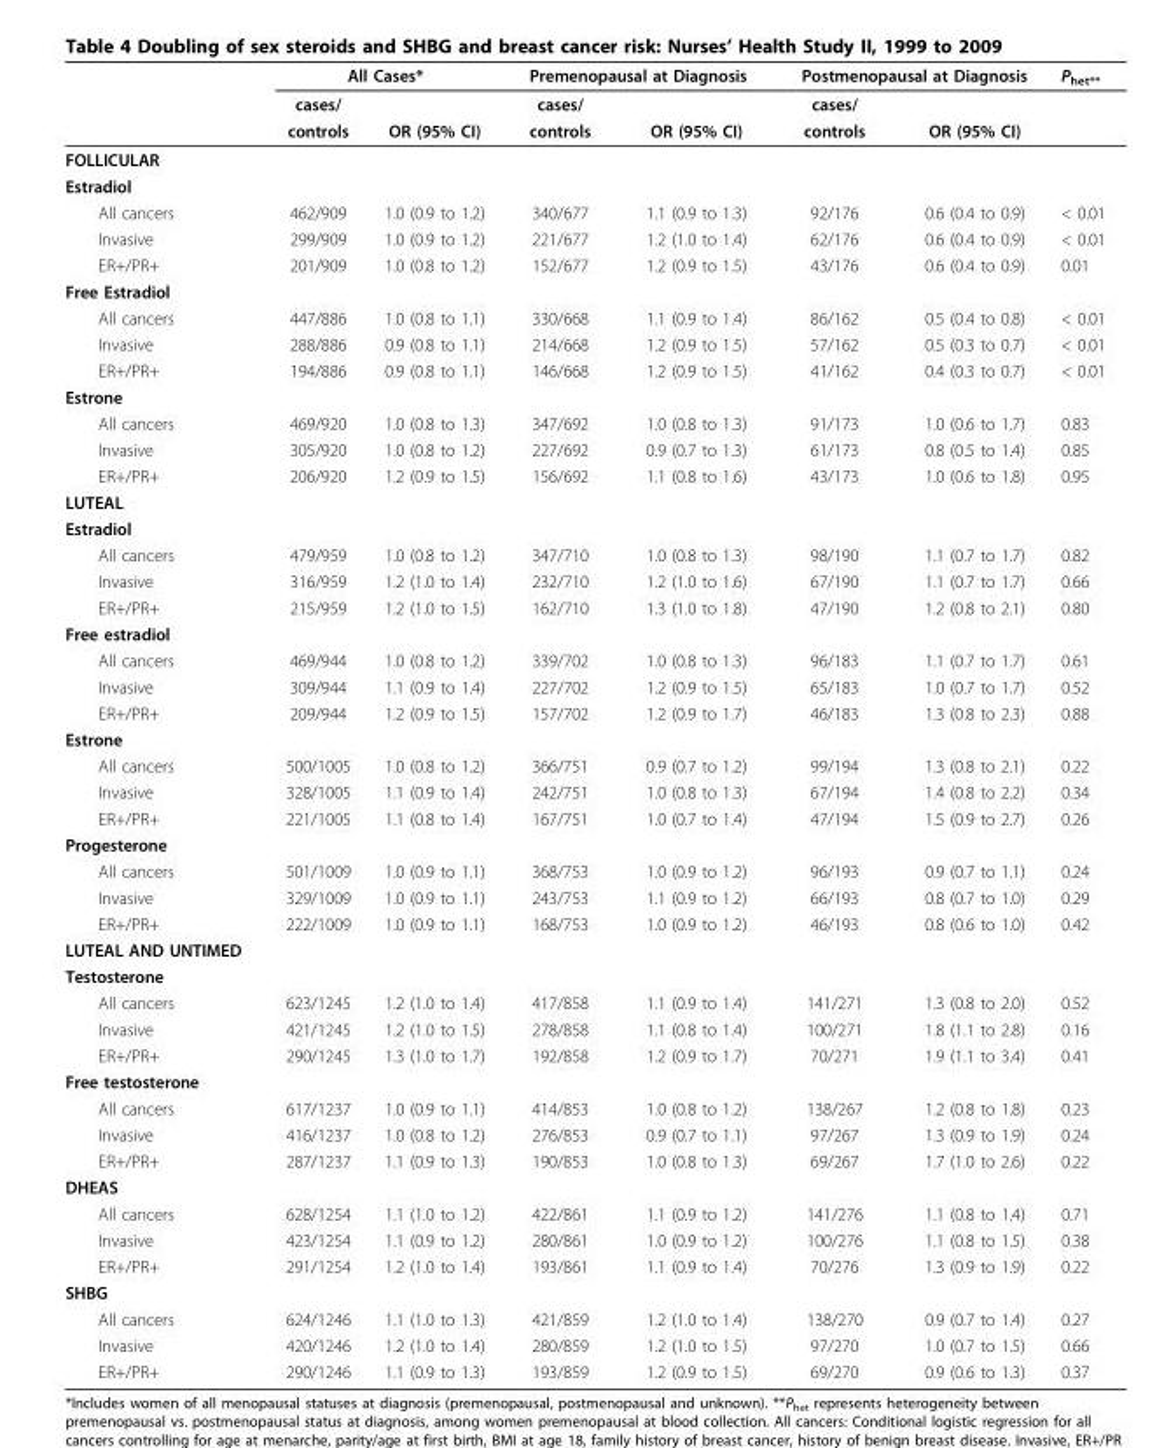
<table><thead><tr><td rowspan="3"></td><td colspan="2">All Cases*</td><td colspan="2">Premenopausal at Diagnosis</td><td colspan="2">Postmenopausal at Diagnosis</td><td rowspan="3">P<sub>het**</sub></td></tr><tr><td rowspan="2">cases/ controls</td><td rowspan="2">OR (95% CI)</td><td rowspan="2">cases/ controls</td><td rowspan="2">OR (95% CI)</td><td rowspan="2">cases/ controls</td><td rowspan="2">OR (95% CI)</td></tr><tr></tr></thead><tbody><tr><td colspan="8">FOLLICULAR</td></tr><tr><td colspan="8">Estradiol</td></tr><tr><td>All cancers</td><td>462/909</td><td>1.0 (0.9 to 1.2)</td><td>340/677</td><td>1.1 (0.9 to 1.3)</td><td>92/176</td><td>0.6 (0.4 to 0.9)</td><td>&lt; 0.01</td></tr><tr><td>Invasive</td><td>299/909</td><td>1.0 (0.9 to 1.2)</td><td>221/677</td><td>1.2 (1.0 to 1.4)</td><td>62/176</td><td>0.6 (0.4 to 0.9)</td><td>&lt; 0.01</td></tr><tr><td>ER+/PR+</td><td>201/909</td><td>1.0 (0.8 to 1.2)</td><td>152/677</td><td>1.2 (0.9 to 1.5)</td><td>43/176</td><td>0.6 (0.4 to 0.9)</td><td>0.01</td></tr><tr><td colspan="8">Free Estradiol</td></tr><tr><td>All cancers</td><td>447/886</td><td>1.0 (0.8 to 1.1)</td><td>330/668</td><td>1.1 (0.9 to 1.4)</td><td>86/162</td><td>0.5 (0.4 to 0.8)</td><td>&lt; 0.01</td></tr><tr><td>Invasive</td><td>288/886</td><td>0.9 (0.8 to 1.1)</td><td>214/668</td><td>1.2 (0.9 to 1.5)</td><td>57/162</td><td>0.5 (0.3 to 0.7)</td><td>&lt; 0.01</td></tr><tr><td>ER+/PR+</td><td>194/886</td><td>0.9 (0.8 to 1.1)</td><td>146/668</td><td>1.2 (0.9 to 1.5)</td><td>41/162</td><td>0.4 (0.3 to 0.7)</td><td>&lt; 0.01</td></tr><tr><td colspan="8">Estrone</td></tr><tr><td>All cancers</td><td>469/920</td><td>1.0 (0.8 to 1.3)</td><td>347/692</td><td>1.0 (0.8 to 1.3)</td><td>91/173</td><td>1.0 (0.6 to 1.7)</td><td>0.83</td></tr><tr><td>Invasive</td><td>305/920</td><td>1.0 (0.8 to 1.2)</td><td>227/692</td><td>0.9 (0.7 to 1.3)</td><td>61/173</td><td>0.8 (0.5 to 1.4)</td><td>0.85</td></tr><tr><td>ER+/PR+</td><td>206/920</td><td>1.2 (0.9 to 1.5)</td><td>156/692</td><td>1.1 (0.8 to 1.6)</td><td>43/173</td><td>1.0 (0.6 to 1.8)</td><td>0.95</td></tr><tr><td colspan="8">LUTEAL</td></tr><tr><td colspan="8">Estradiol</td></tr><tr><td>All cancers</td><td>479/959</td><td>1.0 (0.8 to 1.2)</td><td>347/710</td><td>1.0 (0.8 to 1.3)</td><td>98/190</td><td>1.1 (0.7 to 1.7)</td><td>0.82</td></tr><tr><td>Invasive</td><td>316/959</td><td>1.2 (1.0 to 1.4)</td><td>232/710</td><td>1.2 (1.0 to 1.6)</td><td>67/190</td><td>1.1 (0.7 to 1.7)</td><td>0.66</td></tr><tr><td>ER+/PR+</td><td>215/959</td><td>1.2 (1.0 to 1.5)</td><td>162/710</td><td>1.3 (1.0 to 1.8)</td><td>47/190</td><td>1.2 (0.8 to 2.1)</td><td>0.80</td></tr><tr><td colspan="8">Free estradiol</td></tr><tr><td>All cancers</td><td>469/944</td><td>1.0 (0.8 to 1.2)</td><td>339/702</td><td>1.0 (0.8 to 1.3)</td><td>96/183</td><td>1.1 (0.7 to 1.7)</td><td>0.61</td></tr><tr><td>Invasive</td><td>309/944</td><td>1.1 (0.9 to 1.4)</td><td>227/702</td><td>1.2 (0.9 to 1.5)</td><td>65/183</td><td>1.0 (0.7 to 1.7)</td><td>0.52</td></tr><tr><td>ER+/PR+</td><td>209/944</td><td>1.2 (0.9 to 1.5)</td><td>157/702</td><td>1.2 (0.9 to 1.7)</td><td>46/183</td><td>1.3 (0.8 to 2.3)</td><td>0.88</td></tr><tr><td colspan="8">Estrone</td></tr><tr><td>All cancers</td><td>500/1005</td><td>1.0 (0.8 to 1.2)</td><td>366/751</td><td>0.9 (0.7 to 1.2)</td><td>99/194</td><td>1.3 (0.8 to 2.1)</td><td>0.22</td></tr><tr><td>Invasive</td><td>328/1005</td><td>1.1 (0.9 to 1.4)</td><td>242/751</td><td>1.0 (0.8 to 1.3)</td><td>67/194</td><td>1.4 (0.8 to 2.2)</td><td>0.34</td></tr><tr><td>ER+/PR+</td><td>221/1005</td><td>1.1 (0.8 to 1.4)</td><td>167/751</td><td>1.0 (0.7 to 1.4)</td><td>47/194</td><td>1.5 (0.9 to 2.7)</td><td>0.26</td></tr><tr><td colspan="8">Progesterone</td></tr><tr><td>All cancers</td><td>501/1009</td><td>1.0 (0.9 to 1.1)</td><td>368/753</td><td>1.0 (0.9 to 1.2)</td><td>96/193</td><td>0.9 (0.7 to 1.1)</td><td>0.24</td></tr><tr><td>Invasive</td><td>329/1009</td><td>1.0 (0.9 to 1.1)</td><td>243/753</td><td>1.1 (0.9 to 1.2)</td><td>66/193</td><td>0.8 (0.7 to 1.0)</td><td>0.29</td></tr><tr><td>ER+/PR+</td><td>222/1009</td><td>1.0 (0.9 to 1.1)</td><td>168/753</td><td>1.0 (0.9 to 1.2)</td><td>46/193</td><td>0.8 (0.6 to 1.0)</td><td>0.42</td></tr><tr><td colspan="8">LUTEAL AND UNTIMED</td></tr><tr><td colspan="8">Testosterone</td></tr><tr><td>All cancers</td><td>623/1245</td><td>1.2 (1.0 to 1.4)</td><td>417/858</td><td>1.1 (0.9 to 1.4)</td><td>141/271</td><td>1.3 (0.8 to 2.0)</td><td>0.52</td></tr><tr><td>Invasive</td><td>421/1245</td><td>1.2 (1.0 to 1.5)</td><td>278/858</td><td>1.1 (0.8 to 1.4)</td><td>100/271</td><td>1.8 (1.1 to 2.8)</td><td>0.16</td></tr><tr><td>ER+/PR+</td><td>290/1245</td><td>1.3 (1.0 to 1.7)</td><td>192/858</td><td>1.2 (0.9 to 1.7)</td><td>70/271</td><td>1.9 (1.1 to 3.4)</td><td>0.41</td></tr><tr><td colspan="8">Free testosterone</td></tr><tr><td>All cancers</td><td>617/1237</td><td>1.0 (0.9 to 1.1)</td><td>414/853</td><td>1.0 (0.8 to 1.2)</td><td>138/267</td><td>1.2 (0.8 to 1.8)</td><td>0.23</td></tr><tr><td>Invasive</td><td>416/1237</td><td>1.0 (0.8 to 1.2)</td><td>276/853</td><td>0.9 (0.7 to 1.1)</td><td>97/267</td><td>1.3 (0.9 to 1.9)</td><td>0.24</td></tr><tr><td>ER+/PR+</td><td>287/1237</td><td>1.1 (0.9 to 1.3)</td><td>190/853</td><td>1.0 (0.8 to 1.3)</td><td>69/267</td><td>1.7 (1.0 to 2.6)</td><td>0.22</td></tr><tr><td colspan="8">DHEAS</td></tr><tr><td>All cancers</td><td>628/1254</td><td>1.1 (1.0 to 1.2)</td><td>422/861</td><td>1.1 (0.9 to 1.2)</td><td>141/276</td><td>1.1 (0.8 to 1.4)</td><td>0.71</td></tr><tr><td>Invasive</td><td>423/1254</td><td>1.1 (0.9 to 1.2)</td><td>280/861</td><td>1.0 (0.9 to 1.2)</td><td>100/276</td><td>1.1 (0.8 to 1.5)</td><td>0.38</td></tr><tr><td>ER+/PR+</td><td>291/1254</td><td>1.2 (1.0 to 1.4)</td><td>193/861</td><td>1.1 (0.9 to 1.4)</td><td>70/276</td><td>1.3 (0.9 to 1.9)</td><td>0.22</td></tr><tr><td colspan="8">SHBG</td></tr><tr><td>All cancers</td><td>624/1246</td><td>1.1 (1.0 to 1.3)</td><td>421/859</td><td>1.2 (1.0 to 1.4)</td><td>138/270</td><td>0.9 (0.7 to 1.4)</td><td>0.27</td></tr><tr><td>Invasive</td><td>420/1246</td><td>1.2 (1.0 to 1.4)</td><td>280/859</td><td>1.2 (1.0 to 1.5)</td><td>97/270</td><td>1.0 (0.7 to 1.5)</td><td>0.66</td></tr><tr><td>ER+/PR+</td><td>290/1246</td><td>1.1 (0.9 to 1.3)</td><td>193/859</td><td>1.2 (0.9 to 1.5)</td><td>69/270</td><td>0.9 (0.6 to 1.3)</td><td>0.37</td></tr></tbody></table>